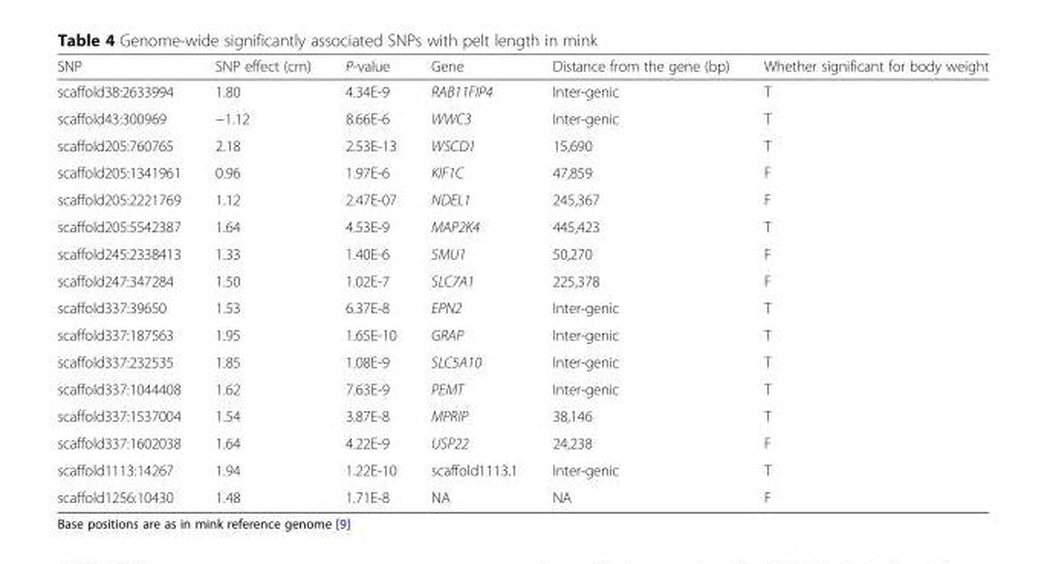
<table><thead><tr><td>SNP</td><td>SNP effect (cm)</td><td>P-value</td><td>Gene</td><td>Distance from the gene (bp)</td><td>Whether significant for body weight</td></tr></thead><tbody><tr><td>scaffold38:2633994</td><td>1.80</td><td>4.34E-9</td><td>RAB11FIP4</td><td>Inter-genic</td><td>T</td></tr><tr><td>scaffold43:300969</td><td>−1.12</td><td>8.66E-6</td><td>WWC3</td><td>Inter-genic</td><td>T</td></tr><tr><td>scaffold205:760765</td><td>2.18</td><td>2.53E-13</td><td>WSCD1</td><td>15,690</td><td>T</td></tr><tr><td>scaffold205:1341961</td><td>0.96</td><td>1.97E-6</td><td>KIF1C</td><td>47,859</td><td>F</td></tr><tr><td>scaffold205:2221769</td><td>1.12</td><td>2.47E-07</td><td>NDEL1</td><td>245,367</td><td>F</td></tr><tr><td>scaffold205:5542387</td><td>1.64</td><td>4.53E-9</td><td>MAP2K4</td><td>445,423</td><td>T</td></tr><tr><td>scaffold245:2338413</td><td>1.33</td><td>1.40E-6</td><td>SMU1</td><td>50,270</td><td>F</td></tr><tr><td>scaffold247:347284</td><td>1.50</td><td>1.02E-7</td><td>SLC7A1</td><td>225,378</td><td>F</td></tr><tr><td>scaffold337:39650</td><td>1.53</td><td>6.37E-8</td><td>EPN2</td><td>Inter-genic</td><td>T</td></tr><tr><td>scaffold337:187563</td><td>1.95</td><td>1.65E-10</td><td>GRAP</td><td>Inter-genic</td><td>T</td></tr><tr><td>scaffold337:232535</td><td>1.85</td><td>1.08E-9</td><td>SLC5A10</td><td>Inter-genic</td><td>T</td></tr><tr><td>scaffold337:1044408</td><td>1.62</td><td>7.63E-9</td><td>PEMT</td><td>Inter-genic</td><td>T</td></tr><tr><td>scaffold337:1537004</td><td>1.54</td><td>3.87E-8</td><td>MPRIP</td><td>38,146</td><td>T</td></tr><tr><td>scaffold337:1602038</td><td>1.64</td><td>4.22E-9</td><td>USP22</td><td>24,238</td><td>F</td></tr><tr><td>scaffold1113:14267</td><td>1.94</td><td>1.22E-10</td><td>scaffold1113.1</td><td>Inter-genic</td><td>T</td></tr><tr><td>scaffold1256:10430</td><td>1.48</td><td>1.71E-8</td><td>NA</td><td>NA</td><td>F</td></tr></tbody></table>